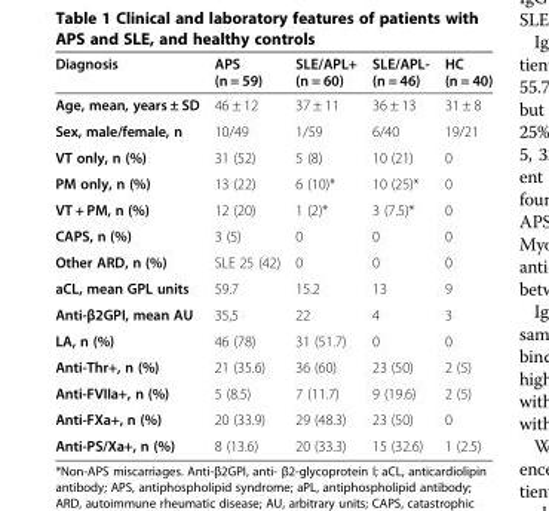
<table><thead><tr><td>Diagnosis</td><td>APS (n = 59)</td><td>SLE/APL+ (n = 60)</td><td>SLE/APL- (n = 46)</td><td>HC (n = 40)</td></tr></thead><tbody><tr><td>Age, mean, years ± SD</td><td>46 ± 12</td><td>37 ± 11</td><td>36 ± 13</td><td>31 ± 8</td></tr><tr><td>Sex, male/female, n</td><td>10/49</td><td>1/59</td><td>6/40</td><td>19/21</td></tr><tr><td>VT only, n (%)</td><td>31 (52)</td><td>5 (8)</td><td>10 (21)</td><td>0</td></tr><tr><td>PM only, n (%)</td><td>13 (22)</td><td>6 (10)*</td><td>10 (25)*</td><td>0</td></tr><tr><td>VT + PM, n (%)</td><td>12 (20)</td><td>1 (2)*</td><td>3 (7.5)*</td><td>0</td></tr><tr><td>CAPS, n (%)</td><td>3 (5)</td><td>0</td><td>0</td><td>0</td></tr><tr><td>Other ARD, n (%)</td><td>SLE 25 (42)</td><td>0</td><td>0</td><td>0</td></tr><tr><td>aCL, mean GPL units</td><td>59.7</td><td>15.2</td><td>13</td><td>9</td></tr><tr><td>Anti-β2GPI, mean AU</td><td>35,5</td><td>22</td><td>4</td><td>3</td></tr><tr><td>LA, n (%)</td><td>46 (78)</td><td>31 (51.7)</td><td>0</td><td>0</td></tr><tr><td>Anti-Thr+, n (%)</td><td>21 (35.6)</td><td>36 (60)</td><td>23 (50)</td><td>2 (5)</td></tr><tr><td>Anti-FVIIa+, n (%)</td><td>5 (8.5)</td><td>7 (11.7)</td><td>9 (19.6)</td><td>2 (5)</td></tr><tr><td>Anti-FXa+, n (%)</td><td>20 (33.9)</td><td>29 (48.3)</td><td>23 (50)</td><td>0</td></tr><tr><td>Anti-PS/Xa+, n (%)</td><td>8 (13.6)</td><td>20 (33.3)</td><td>15 (32.6)</td><td>1 (2.5)</td></tr></tbody></table>